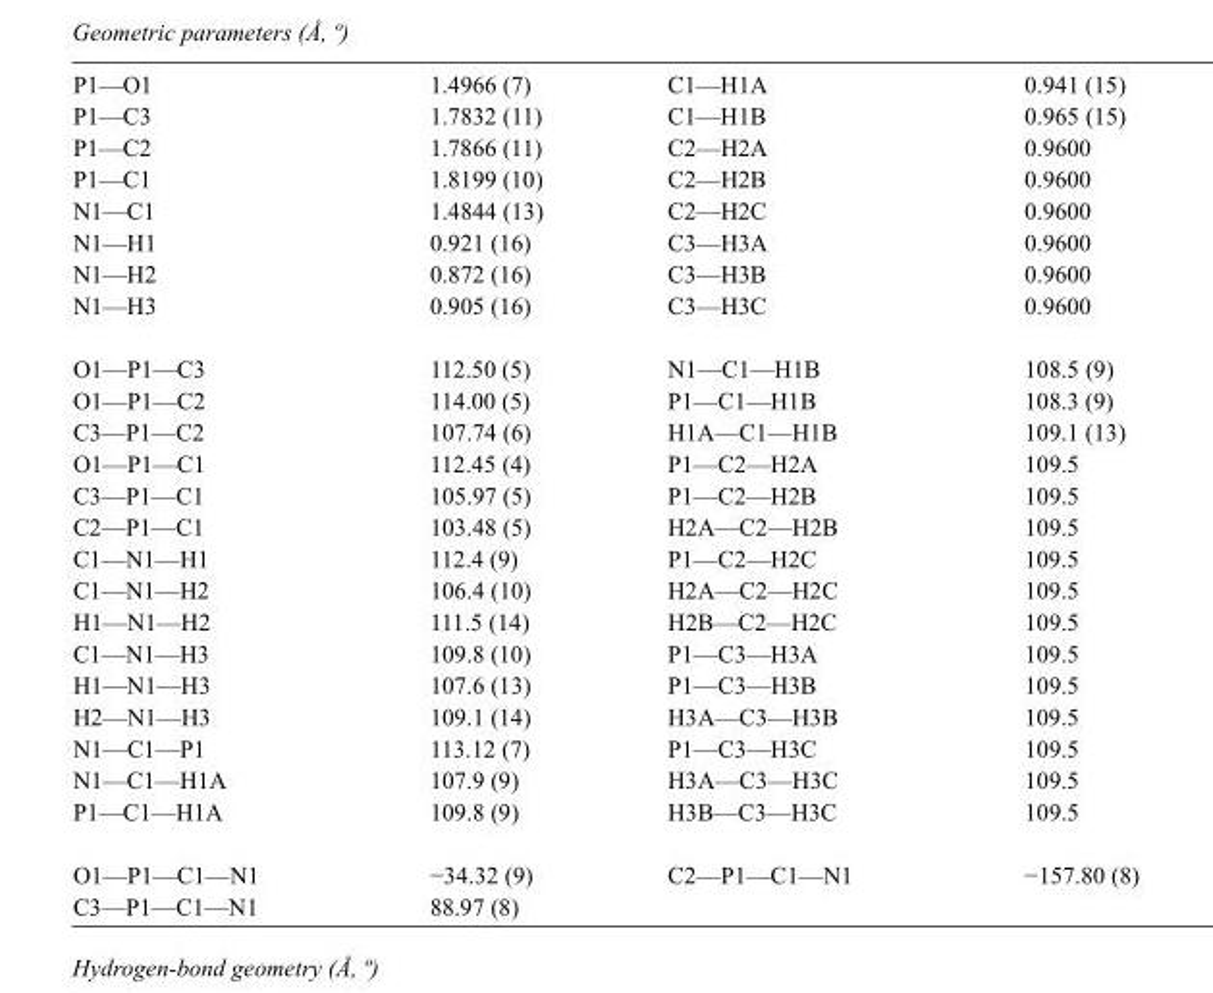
<table><tbody><tr><td>P1—O1</td><td>1.4966 (7)</td><td>C1—H1A</td><td>0.941 (15)</td></tr><tr><td>P1—C3</td><td>1.7832 (11)</td><td>C1—H1B</td><td>0.965 (15)</td></tr><tr><td>P1—C2</td><td>1.7866 (11)</td><td>C2—H2A</td><td>0.9600</td></tr><tr><td>P1—C1</td><td>1.8199 (10)</td><td>C2—H2B</td><td>0.9600</td></tr><tr><td>N1—C1</td><td>1.4844 (13)</td><td>C2—H2C</td><td>0.9600</td></tr><tr><td>N1—H1</td><td>0.921 (16)</td><td>C3—H3A</td><td>0.9600</td></tr><tr><td>N1—H2</td><td>0.872 (16)</td><td>C3—H3B</td><td>0.9600</td></tr><tr><td>N1—H3</td><td>0.905 (16)</td><td>C3—H3C</td><td>0.9600</td></tr><tr><td>O1—P1—C3</td><td>112.50 (5)</td><td>N1—C1—H1B</td><td>108.5 (9)</td></tr><tr><td>O1—P1—C2</td><td>114.00 (5)</td><td>P1—C1—H1B</td><td>108.3 (9)</td></tr><tr><td>C3—P1—C2</td><td>107.74 (6)</td><td>H1A—C1—H1B</td><td>109.1 (13)</td></tr><tr><td>O1—P1—C1</td><td>112.45 (4)</td><td>P1—C2—H2A</td><td>109.5</td></tr><tr><td>C3—P1—C1</td><td>105.97 (5)</td><td>P1—C2—H2B</td><td>109.5</td></tr><tr><td>C2—P1—C1</td><td>103.48 (5)</td><td>H2A—C2—H2B</td><td>109.5</td></tr><tr><td>C1—N1—H1</td><td>112.4 (9)</td><td>P1—C2—H2C</td><td>109.5</td></tr><tr><td>C1—N1—H2</td><td>106.4 (10)</td><td>H2A—C2—H2C</td><td>109.5</td></tr><tr><td>H1—N1—H2</td><td>111.5 (14)</td><td>H2B—C2—H2C</td><td>109.5</td></tr><tr><td>C1—N1—H3</td><td>109.8 (10)</td><td>P1—C3—H3A</td><td>109.5</td></tr><tr><td>H1—N1—H3</td><td>107.6 (13)</td><td>P1—C3—H3B</td><td>109.5</td></tr><tr><td>H2—N1—H3</td><td>109.1 (14)</td><td>H3A—C3—H3B</td><td>109.5</td></tr><tr><td>N1—C1—P1</td><td>113.12 (7)</td><td>P1—C3—H3C</td><td>109.5</td></tr><tr><td>N1—C1—H1A</td><td>107.9 (9)</td><td>H3A—C3—H3C</td><td>109.5</td></tr><tr><td>P1—C1—H1A</td><td>109.8 (9)</td><td>H3B—C3—H3C</td><td>109.5</td></tr><tr><td>O1—P1—C1—N1</td><td>−34.32 (9)</td><td>C2—P1—C1—N1</td><td>−157.80 (8)</td></tr><tr><td>C3—P1—C1—N1</td><td>88.97 (8)</td><td></td><td></td></tr></tbody></table>